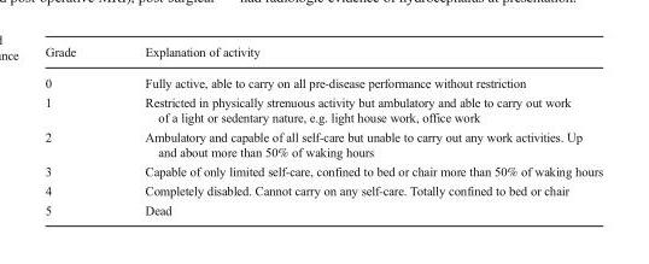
<table><thead><tr><td>Grade</td><td>Explanation of activity</td></tr></thead><tbody><tr><td>0</td><td>Fully active, able to carry on all pre-disease performance without restriction</td></tr><tr><td>1</td><td>Restricted in physically strenuous activity but ambulatory and able to carry out work of a light or sedentary nature, e.g. light house work, office work</td></tr><tr><td>2</td><td>Ambulatory and capable of all self-care but unable to carry out any work activities. Up and about more than 50% of waking hours</td></tr><tr><td>3</td><td>Capable of only limited self-care, confined to bed or chair more than 50% of waking hours</td></tr><tr><td>4</td><td>Completely disabled. Cannot carry on any self-care. Totally confined to bed or chair</td></tr><tr><td>5</td><td>Dead</td></tr></tbody></table>